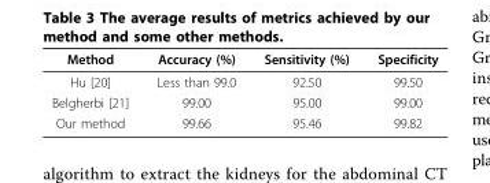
<table><thead><tr><td>Method</td><td>Accuracy (%)</td><td>Sensitivity (%)</td><td>Specificity</td></tr></thead><tbody><tr><td>Hu [20]</td><td>Less than 99.0</td><td>92.50</td><td>99.50</td></tr><tr><td>Belgherbi [21]</td><td>99.00</td><td>95.00</td><td>99.00</td></tr><tr><td>Our method</td><td>99.66</td><td>95.46</td><td>99.82</td></tr></tbody></table>